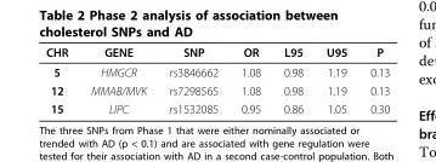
<table><thead><tr><td>CHR</td><td>GENE</td><td>SNP</td><td>OR</td><td>L95</td><td>U95</td><td>P</td></tr></thead><tbody><tr><td>5</td><td>HMGCR</td><td>rs3846662</td><td>1.08</td><td>0.98</td><td>1.19</td><td>0.13</td></tr><tr><td>12</td><td>MMAB/MVK</td><td>rs7298565</td><td>1.08</td><td>0.98</td><td>1.19</td><td>0.13</td></tr><tr><td>15</td><td>LIPC</td><td>rs1532085</td><td>0.95</td><td>0.86</td><td>1.05</td><td>0.30</td></tr></tbody></table>